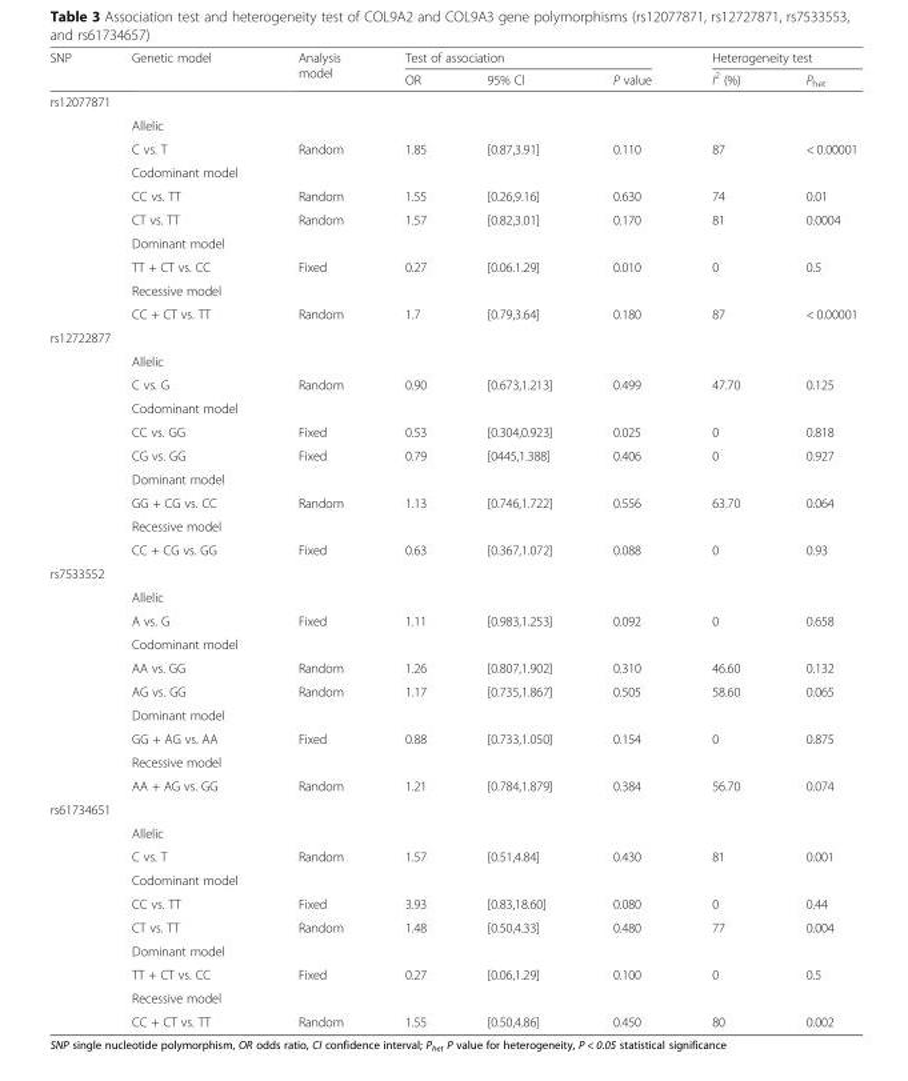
<table><thead><tr><td rowspan="2">SNP</td><td rowspan="2">Genetic model</td><td rowspan="2">Analysis model</td><td colspan="3">Test of association</td><td colspan="2">Heterogeneity test</td></tr><tr><td>OR</td><td>95% Cl</td><td>P value</td><td>I<sup>2</sup> (%)</td><td>P<sub>het</sub></td></tr></thead><tbody><tr><td colspan="8">rs12077871</td></tr><tr><td></td><td>Allelic</td><td></td><td></td><td></td><td></td><td></td><td></td></tr><tr><td></td><td>C vs. T</td><td>Random</td><td>1.85</td><td>[0.87,3.91]</td><td>0.110</td><td>87</td><td>&lt; 0.00001</td></tr><tr><td></td><td>Codominant model</td><td></td><td></td><td></td><td></td><td></td><td></td></tr><tr><td></td><td>CC vs. TT</td><td>Random</td><td>1.55</td><td>[0.26,9.16]</td><td>0.630</td><td>74</td><td>0.01</td></tr><tr><td></td><td>CT vs. TT</td><td>Random</td><td>1.57</td><td>[0.82,3.01]</td><td>0.170</td><td>81</td><td>0.0004</td></tr><tr><td></td><td>Dominant model</td><td></td><td></td><td></td><td></td><td></td><td></td></tr><tr><td></td><td>TT + CT vs. CC</td><td>Fixed</td><td>0.27</td><td>[0.06.1.29]</td><td>0.010</td><td>0</td><td>0.5</td></tr><tr><td></td><td>Recessive model</td><td></td><td></td><td></td><td></td><td></td><td></td></tr><tr><td></td><td>CC + CT vs. TT</td><td>Random</td><td>1.7</td><td>[0.79,3.64]</td><td>0.180</td><td>87</td><td>&lt; 0.00001</td></tr><tr><td colspan="8">rs12722877</td></tr><tr><td></td><td>Allelic</td><td></td><td></td><td></td><td></td><td></td><td></td></tr><tr><td></td><td>C vs. G</td><td>Random</td><td>0.90</td><td>[0.673,1.213]</td><td>0.499</td><td>47.70</td><td>0.125</td></tr><tr><td></td><td>Codominant model</td><td></td><td></td><td></td><td></td><td></td><td></td></tr><tr><td></td><td>CC vs. GG</td><td>Fixed</td><td>0.53</td><td>[0.304,0.923]</td><td>0.025</td><td>0</td><td>0.818</td></tr><tr><td></td><td>CG vs. GG</td><td>Fixed</td><td>0.79</td><td>[0445,1.388]</td><td>0.406</td><td>0</td><td>0.927</td></tr><tr><td></td><td>Dominant model</td><td></td><td></td><td></td><td></td><td></td><td></td></tr><tr><td></td><td>GG + CG vs. CC</td><td>Random</td><td>1.13</td><td>[0.746,1.722]</td><td>0.556</td><td>63.70</td><td>0.064</td></tr><tr><td></td><td>Recessive model</td><td></td><td></td><td></td><td></td><td></td><td></td></tr><tr><td></td><td>CC + CG vs. GG</td><td>Fixed</td><td>0.63</td><td>[0.367,1.072]</td><td>0.088</td><td>0</td><td>0.93</td></tr><tr><td colspan="8">rs7533552</td></tr><tr><td></td><td>Allelic</td><td></td><td></td><td></td><td></td><td></td><td></td></tr><tr><td></td><td>A vs. G</td><td>Fixed</td><td>1.11</td><td>[0.983,1.253]</td><td>0.092</td><td>0</td><td>0.658</td></tr><tr><td></td><td>Codominant model</td><td></td><td></td><td></td><td></td><td></td><td></td></tr><tr><td></td><td>AA vs. GG</td><td>Random</td><td>1.26</td><td>[0.807,1.902]</td><td>0.310</td><td>46.60</td><td>0.132</td></tr><tr><td></td><td>AG vs. GG</td><td>Random</td><td>1.17</td><td>[0.735,1.867]</td><td>0.505</td><td>58.60</td><td>0.065</td></tr><tr><td></td><td>Dominant model</td><td></td><td></td><td></td><td></td><td></td><td></td></tr><tr><td></td><td>GG + AG vs. AA</td><td>Fixed</td><td>0.88</td><td>[0.733,1.050]</td><td>0.154</td><td>0</td><td>0.875</td></tr><tr><td></td><td>Recessive model</td><td></td><td></td><td></td><td></td><td></td><td></td></tr><tr><td></td><td>AA + AG vs. GG</td><td>Random</td><td>1.21</td><td>[0.784,1.879]</td><td>0.384</td><td>56.70</td><td>0.074</td></tr><tr><td colspan="8">rs61734651</td></tr><tr><td></td><td>Allelic</td><td></td><td></td><td></td><td></td><td></td><td></td></tr><tr><td></td><td>C vs. T</td><td>Random</td><td>1.57</td><td>[0.51,4.84]</td><td>0.430</td><td>81</td><td>0.001</td></tr><tr><td></td><td>Codominant model</td><td></td><td></td><td></td><td></td><td></td><td></td></tr><tr><td></td><td>CC vs. TT</td><td>Fixed</td><td>3.93</td><td>[0.83,18.60]</td><td>0.080</td><td>0</td><td>0.44</td></tr><tr><td></td><td>CT vs. TT</td><td>Random</td><td>1.48</td><td>[0.50,4.33]</td><td>0.480</td><td>77</td><td>0.004</td></tr><tr><td></td><td>Dominant model</td><td></td><td></td><td></td><td></td><td></td><td></td></tr><tr><td></td><td>TT + CT vs. CC</td><td>Fixed</td><td>0.27</td><td>[0.06,1.29]</td><td>0.100</td><td>0</td><td>0.5</td></tr><tr><td></td><td>Recessive model</td><td></td><td></td><td></td><td></td><td></td><td></td></tr><tr><td></td><td>CC + CT vs. TT</td><td>Random</td><td>1.55</td><td>[0.50,4.86]</td><td>0.450</td><td>80</td><td>0.002</td></tr></tbody></table>